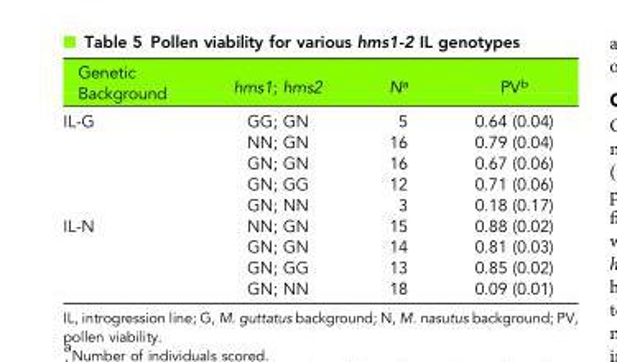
<table><thead><tr><td>Genetic Background</td><td>hms1; hms2</td><td>N<sup>a</sup></td><td>PV<sup>b</sup></td></tr></thead><tbody><tr><td rowspan="5">IL-G</td><td>GG; GN</td><td>5</td><td>0.64 (0.04)</td></tr><tr><td>NN; GN</td><td>16</td><td>0.79 (0.04)</td></tr><tr><td>GN; GN</td><td>16</td><td>0.67 (0.06)</td></tr><tr><td>GN; GG</td><td>12</td><td>0.71 (0.06)</td></tr><tr><td>GN; NN</td><td>3</td><td>0.18 (0.17)</td></tr><tr><td rowspan="4">IL-N</td><td>NN; GN</td><td>15</td><td>0.88 (0.02)</td></tr><tr><td>GN; GN</td><td>14</td><td>0.81 (0.03)</td></tr><tr><td>GN; GG</td><td>13</td><td>0.85 (0.02)</td></tr><tr><td>GN; NN</td><td>18</td><td>0.09 (0.01)</td></tr></tbody></table>